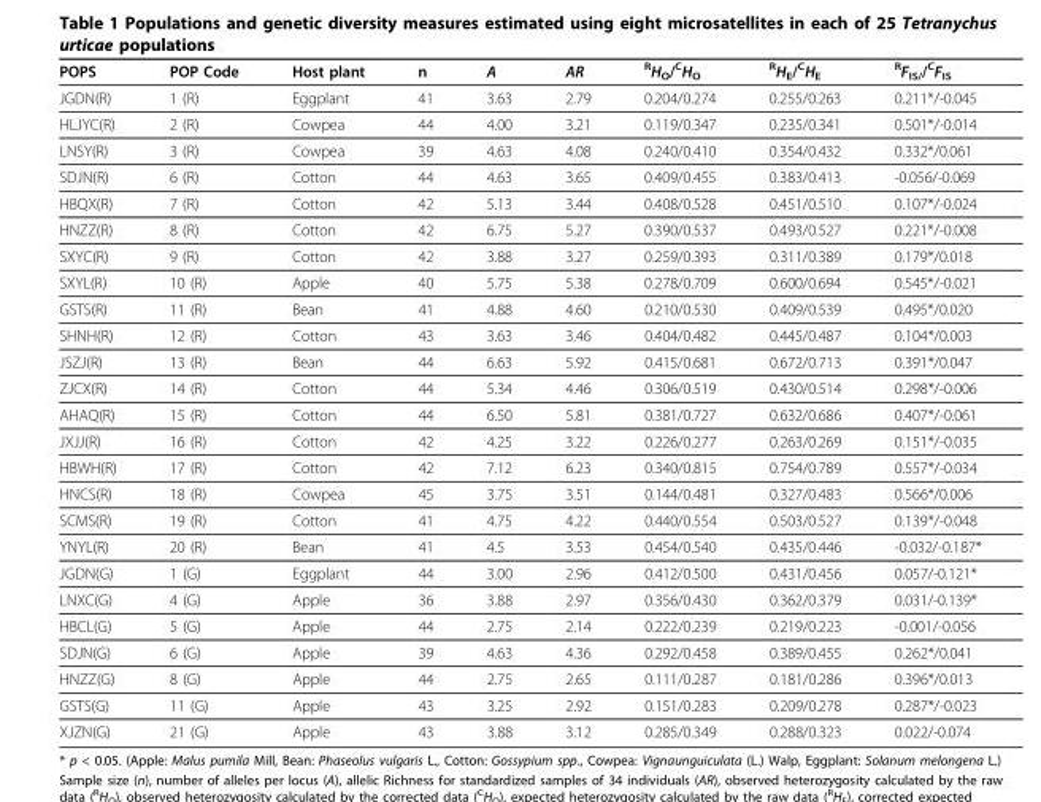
<table><thead><tr><td>POPS</td><td>POP Code</td><td>Host plant</td><td>n</td><td>A</td><td>AR</td><td><sup>R</sup>H<sub>O</sub>/<sup>C</sup>H<sub>O</sub></td><td><sup>R</sup>H<sub>E</sub>/<sup>C</sup>H<sub>E</sub></td><td><sup>R</sup>F<sub>IS/</sub>/<sup>C</sup>F<sub>IS</sub></td></tr></thead><tbody><tr><td>JGDN(R)</td><td>1 (R)</td><td>Eggplant</td><td>41</td><td>3.63</td><td>2.79</td><td>0.204/0.274</td><td>0.255/0.263</td><td>0.211*/-0.045</td></tr><tr><td>HLJYC(R)</td><td>2 (R)</td><td>Cowpea</td><td>44</td><td>4.00</td><td>3.21</td><td>0.119/0.347</td><td>0.235/0.341</td><td>0.501*/-0.014</td></tr><tr><td>LNSY(R)</td><td>3 (R)</td><td>Cowpea</td><td>39</td><td>4.63</td><td>4.08</td><td>0.240/0.410</td><td>0.354/0.432</td><td>0.332*/0.061</td></tr><tr><td>SDJN(R)</td><td>6 (R)</td><td>Cotton</td><td>44</td><td>4.63</td><td>3.65</td><td>0.409/0.455</td><td>0.383/0.413</td><td>-0.056/-0.069</td></tr><tr><td>HBQX(R)</td><td>7 (R)</td><td>Cotton</td><td>42</td><td>5.13</td><td>3.44</td><td>0.408/0.528</td><td>0.451/0.510</td><td>0.107*/-0.024</td></tr><tr><td>HNZZ(R)</td><td>8 (R)</td><td>Cotton</td><td>42</td><td>6.75</td><td>5.27</td><td>0.390/0.537</td><td>0.493/0.527</td><td>0.221*/-0.008</td></tr><tr><td>SXYC(R)</td><td>9 (R)</td><td>Cotton</td><td>42</td><td>3.88</td><td>3.27</td><td>0.259/0.393</td><td>0.311/0.389</td><td>0.179*/0.018</td></tr><tr><td>SXYL(R)</td><td>10 (R)</td><td>Apple</td><td>40</td><td>5.75</td><td>5.38</td><td>0.278/0.709</td><td>0.600/0.694</td><td>0.545*/-0.021</td></tr><tr><td>GSTS(R)</td><td>11 (R)</td><td>Bean</td><td>41</td><td>4.88</td><td>4.60</td><td>0.210/0.530</td><td>0.409/0.539</td><td>0.495*/0.020</td></tr><tr><td>SHNH(R)</td><td>12 (R)</td><td>Cotton</td><td>43</td><td>3.63</td><td>3.46</td><td>0.404/0.482</td><td>0.445/0.487</td><td>0.104*/0.003</td></tr><tr><td>JSZJ(R)</td><td>13 (R)</td><td>Bean</td><td>44</td><td>6.63</td><td>5.92</td><td>0.415/0.681</td><td>0.672/0.713</td><td>0.391*/0.047</td></tr><tr><td>ZJCX(R)</td><td>14 (R)</td><td>Cotton</td><td>44</td><td>5.34</td><td>4.46</td><td>0.306/0.519</td><td>0.430/0.514</td><td>0.298*/-0.006</td></tr><tr><td>AHAQ(R)</td><td>15 (R)</td><td>Cotton</td><td>44</td><td>6.50</td><td>5.81</td><td>0.381/0.727</td><td>0.632/0.686</td><td>0.407*/-0.061</td></tr><tr><td>JXJJ(R)</td><td>16 (R)</td><td>Cotton</td><td>42</td><td>4.25</td><td>3.22</td><td>0.226/0.277</td><td>0.263/0.269</td><td>0.151*/-0.035</td></tr><tr><td>HBWH(R)</td><td>17 (R)</td><td>Cotton</td><td>42</td><td>7.12</td><td>6.23</td><td>0.340/0.815</td><td>0.754/0.789</td><td>0.557*/-0.034</td></tr><tr><td>HNCS(R)</td><td>18 (R)</td><td>Cowpea</td><td>45</td><td>3.75</td><td>3.51</td><td>0.144/0.481</td><td>0.327/0.483</td><td>0.566*/0.006</td></tr><tr><td>SCMS(R)</td><td>19 (R)</td><td>Cotton</td><td>41</td><td>4.75</td><td>4.22</td><td>0.440/0.554</td><td>0.503/0.527</td><td>0.139*/-0.048</td></tr><tr><td>YNYL(R)</td><td>20 (R)</td><td>Bean</td><td>41</td><td>4.5</td><td>3.53</td><td>0.454/0.540</td><td>0.435/0.446</td><td>-0.032/-0.187*</td></tr><tr><td>JGDN(G)</td><td>1 (G)</td><td>Eggplant</td><td>44</td><td>3.00</td><td>2.96</td><td>0.412/0.500</td><td>0.431/0.456</td><td>0.057/-0.121*</td></tr><tr><td>LNXC(G)</td><td>4 (G)</td><td>Apple</td><td>36</td><td>3.88</td><td>2.97</td><td>0.356/0.430</td><td>0.362/0.379</td><td>0.031/-0.139*</td></tr><tr><td>HBCL(G)</td><td>5 (G)</td><td>Apple</td><td>44</td><td>2.75</td><td>2.14</td><td>0.222/0.239</td><td>0.219/0.223</td><td>-0.001/-0.056</td></tr><tr><td>SDJN(G)</td><td>6 (G)</td><td>Apple</td><td>39</td><td>4.63</td><td>4.36</td><td>0.292/0.458</td><td>0.389/0.455</td><td>0.262*/0.041</td></tr><tr><td>HNZZ(G)</td><td>8 (G)</td><td>Apple</td><td>44</td><td>2.75</td><td>2.65</td><td>0.111/0.287</td><td>0.181/0.286</td><td>0.396*/0.013</td></tr><tr><td>GSTS(G)</td><td>11 (G)</td><td>Apple</td><td>43</td><td>3.25</td><td>2.92</td><td>0.151/0.283</td><td>0.209/0.278</td><td>0.287*/-0.023</td></tr><tr><td>XJZN(G)</td><td>21 (G)</td><td>Apple</td><td>43</td><td>3.88</td><td>3.12</td><td>0.285/0.349</td><td>0.288/0.323</td><td>0.022/-0.074</td></tr></tbody></table>